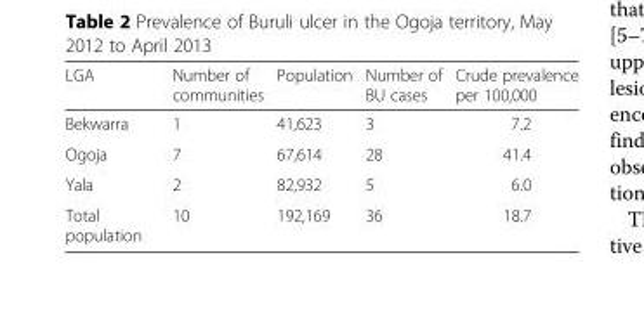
<table><thead><tr><td>LGA</td><td>Number of communities</td><td>Population</td><td>Number of BU cases</td><td>Crude prevalence per 100,000</td></tr></thead><tbody><tr><td>Bekwarra</td><td>1</td><td>41,623</td><td>3</td><td>7.2</td></tr><tr><td>Ogoja</td><td>7</td><td>67,614</td><td>28</td><td>41.4</td></tr><tr><td>Yala</td><td>2</td><td>82,932</td><td>5</td><td>6.0</td></tr><tr><td>Total population</td><td>10</td><td>192,169</td><td>36</td><td>18.7</td></tr></tbody></table>